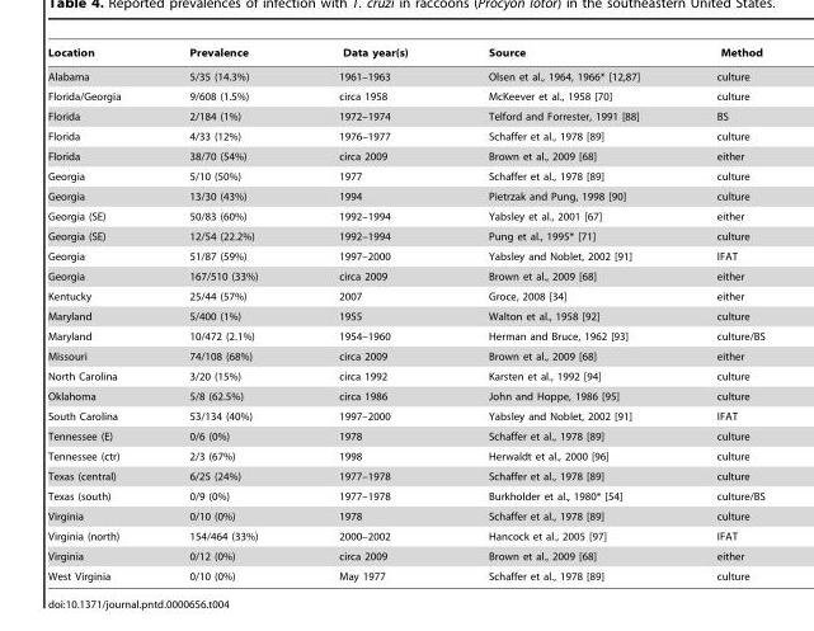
<table><thead><tr><td>Location</td><td>Prevalence</td><td>Data year(s)</td><td>Source</td><td>Method</td></tr></thead><tbody><tr><td>Alabama</td><td>5/35 (14.3%)</td><td>1961–1963</td><td>Olsen et al., 1964, 1966* [12,87]</td><td>culture</td></tr><tr><td>Florida/Georgia</td><td>9/608 (1.5%)</td><td>circa 1958</td><td>McKeever et al., 1958 [70]</td><td>culture</td></tr><tr><td>Florida</td><td>2/184 (1%)</td><td>1972–1974</td><td>Telford and Forrester, 1991 [88]</td><td>BS</td></tr><tr><td>Florida</td><td>4/33 (12%)</td><td>1976–1977</td><td>Schaffer et al., 1978 [89]</td><td>culture</td></tr><tr><td>Florida</td><td>38/70 (54%)</td><td>circa 2009</td><td>Brown et al., 2009 [68]</td><td>either</td></tr><tr><td>Georgia</td><td>5/10 (50%)</td><td>1977</td><td>Schaffer et al., 1978 [89]</td><td>culture</td></tr><tr><td>Georgia</td><td>13/30 (43%)</td><td>1994</td><td>Pietrzak and Pung, 1998 [90]</td><td>culture</td></tr><tr><td>Georgia (SE)</td><td>50/83 (60%)</td><td>1992–1994</td><td>Yabsley et al., 2001 [67]</td><td>either</td></tr><tr><td>Georgia (SE)</td><td>12/54 (22.2%)</td><td>1992–1994</td><td>Pung et al., 1995* [71]</td><td>culture</td></tr><tr><td>Georgia</td><td>51/87 (59%)</td><td>1997–2000</td><td>Yabsley and Noblet, 2002 [91]</td><td>IFAT</td></tr><tr><td>Georgia</td><td>167/510 (33%)</td><td>circa 2009</td><td>Brown et al., 2009 [68]</td><td>either</td></tr><tr><td>Kentucky</td><td>25/44 (57%)</td><td>2007</td><td>Groce, 2008 [34]</td><td>either</td></tr><tr><td>Maryland</td><td>5/400 (1%)</td><td>1955</td><td>Walton et al., 1958 [92]</td><td>culture</td></tr><tr><td>Maryland</td><td>10/472 (2.1%)</td><td>1954–1960</td><td>Herman and Bruce, 1962 [93]</td><td>culture/BS</td></tr><tr><td>Missouri</td><td>74/108 (68%)</td><td>circa 2009</td><td>Brown et al., 2009 [68]</td><td>either</td></tr><tr><td>North Carolina</td><td>3/20 (15%)</td><td>circa 1992</td><td>Karsten et al., 1992 [94]</td><td>culture</td></tr><tr><td>Oklahoma</td><td>5/8 (62.5%)</td><td>circa 1986</td><td>John and Hoppe, 1986 [95]</td><td>culture</td></tr><tr><td>South Carolina</td><td>53/134 (40%)</td><td>1997–2000</td><td>Yabsley and Noblet, 2002 [91]</td><td>IFAT</td></tr><tr><td>Tennessee (E)</td><td>0/6 (0%)</td><td>1978</td><td>Schaffer et al., 1978 [89]</td><td>culture</td></tr><tr><td>Tennessee (ctr)</td><td>2/3 (67%)</td><td>1998</td><td>Herwaldt et al., 2000 [96]</td><td>culture</td></tr><tr><td>Texas (central)</td><td>6/25 (24%)</td><td>1977–1978</td><td>Schaffer et al., 1978 [89]</td><td>culture</td></tr><tr><td>Texas (south)</td><td>0/9 (0%)</td><td>1977–1978</td><td>Burkholder et al., 1980* [54]</td><td>culture/BS</td></tr><tr><td>Virginia</td><td>0/10 (0%)</td><td>1978</td><td>Schaffer et al., 1978 [89]</td><td>culture</td></tr><tr><td>Virginia (north)</td><td>154/464 (33%)</td><td>2000–2002</td><td>Hancock et al., 2005 [97]</td><td>IFAT</td></tr><tr><td>Virginia</td><td>0/12 (0%)</td><td>circa 2009</td><td>Brown et al., 2009 [68]</td><td>either</td></tr><tr><td>West Virginia</td><td>0/10 (0%)</td><td>May 1977</td><td>Schaffer et al., 1978 [89]</td><td>culture</td></tr></tbody></table>